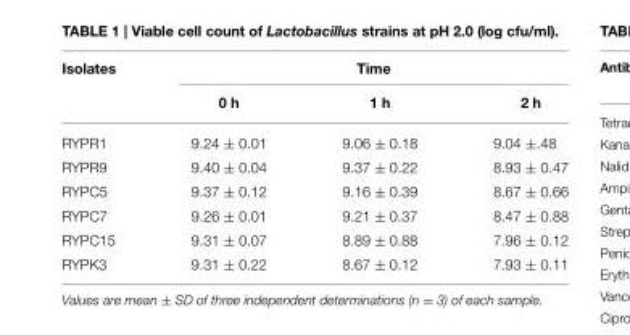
<table><thead><tr><td rowspan="2">Isolates</td><td colspan="3">Time</td></tr><tr><td>0 h</td><td>1 h</td><td>2 h</td></tr></thead><tbody><tr><td>RYPR1</td><td>9.24 ± 0.01</td><td>9.06 ± 0.18</td><td>9.04 ±.48</td></tr><tr><td>RYPR9</td><td>9.40 ± 0.04</td><td>9.37 ± 0.22</td><td>8.93 ± 0.47</td></tr><tr><td>RYPC5</td><td>9.37 ± 0.12</td><td>9.16 ± 0.39</td><td>8.67 ± 0.66</td></tr><tr><td>RYPC7</td><td>9.26 ± 0.01</td><td>9.21 ± 0.37</td><td>8.47 ± 0.88</td></tr><tr><td>RYPC15</td><td>9.31 ± 0.07</td><td>8.89 ± 0.88</td><td>7.96 ± 0.12</td></tr><tr><td>RYPK3</td><td>9.31 ± 0.22</td><td>8.67 ± 0.12</td><td>7.93 ± 0.11</td></tr></tbody></table>